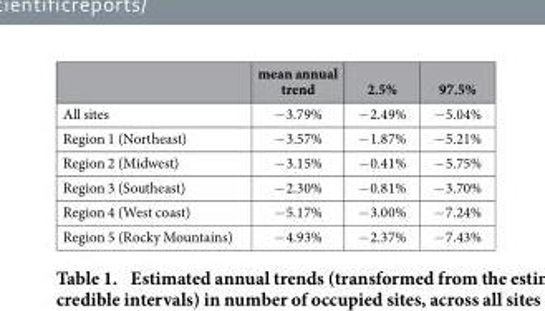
<table><thead><tr><td></td><td>mean annual trend</td><td>2.5%</td><td>97.5%</td></tr></thead><tbody><tr><td>All sites</td><td>− 3.79%</td><td>− 2.49%</td><td>− 5.04%</td></tr><tr><td>Region 1 (Northeast)</td><td>− 3.57%</td><td>− 1.87%</td><td>− 5.21%</td></tr><tr><td>Region 2 (Midwest)</td><td>− 3.15%</td><td>− 0.41%</td><td>− 5.75%</td></tr><tr><td>Region 3 (Southeast)</td><td>− 2.30%</td><td>− 0.81%</td><td>− 3.70%</td></tr><tr><td>Region 4 (West coast)</td><td>− 5.17%</td><td>− 3.00%</td><td>− 7.24%</td></tr><tr><td>Region 5 (Rocky Mountains)</td><td>− 4.93%</td><td>− 2.37%</td><td>− 7.43%</td></tr></tbody></table>